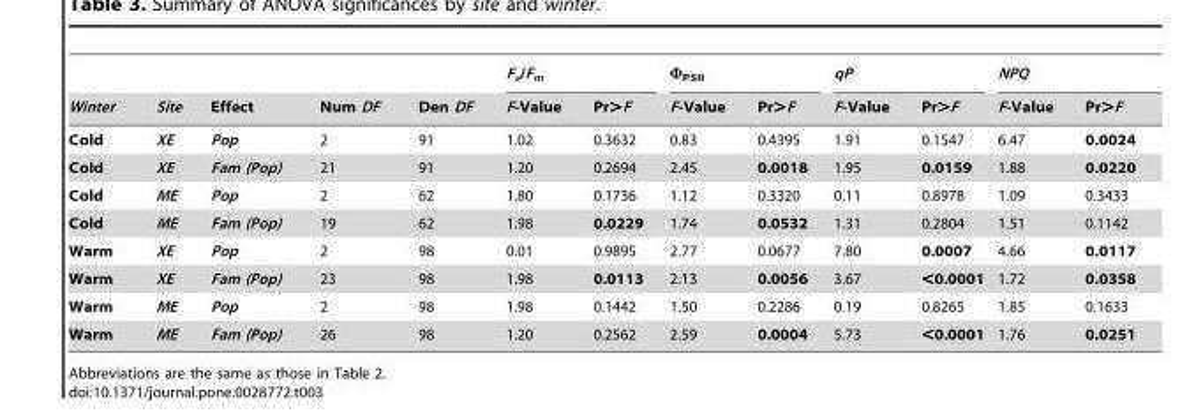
<table><thead><tr><td rowspan="2">Winter</td><td rowspan="2">Site</td><td rowspan="2">Effect</td><td rowspan="2">Num DF</td><td rowspan="2">Den DF</td><td colspan="2">F<sub>v</sub>/F<sub>m</sub></td><td colspan="2">Φ<sub>PSII</sub></td><td colspan="2">qP</td><td colspan="2">NPQ</td></tr><tr><td>F-Value</td><td>Pr&gt;F</td><td>F-Value</td><td>Pr&gt;F</td><td>F-Value</td><td>Pr&gt;F</td><td>F-Value</td><td>Pr&gt;F</td></tr></thead><tbody><tr><td>Cold</td><td>XE</td><td>Pop</td><td>2</td><td>91</td><td>1.02</td><td>0.3632</td><td>0.83</td><td>0.4395</td><td>1.91</td><td>0.1547</td><td>6.47</td><td>0.0024</td></tr><tr><td>Cold</td><td>XE</td><td>Fam (Pop)</td><td>21</td><td>91</td><td>1.20</td><td>0.2694</td><td>2.45</td><td>0.0018</td><td>1.95</td><td>0.0159</td><td>1.88</td><td>0.0220</td></tr><tr><td>Cold</td><td>ME</td><td>Pop</td><td>2</td><td>62</td><td>1.80</td><td>0.1736</td><td>1.12</td><td>0.3320</td><td>0.11</td><td>0.8978</td><td>1.09</td><td>0.3433</td></tr><tr><td>Cold</td><td>ME</td><td>Fam (Pop)</td><td>19</td><td>62</td><td>1.98</td><td>0.0229</td><td>1.74</td><td>0.0532</td><td>1.31</td><td>0.2804</td><td>1.51</td><td>0.1142</td></tr><tr><td>Warm</td><td>XE</td><td>Pop</td><td>2</td><td>98</td><td>0.01</td><td>0.9895</td><td>2.77</td><td>0.0677</td><td>7.80</td><td>0.0007</td><td>4.66</td><td>0.0117</td></tr><tr><td>Warm</td><td>XE</td><td>Fam (Pop)</td><td>23</td><td>98</td><td>1.98</td><td>0.0113</td><td>2.13</td><td>0.0056</td><td>3.67</td><td>&lt;0.0001</td><td>1.72</td><td>0.0358</td></tr><tr><td>Warm</td><td>ME</td><td>Pop</td><td>2</td><td>98</td><td>1.98</td><td>0.1442</td><td>1.50</td><td>0.2286</td><td>0.19</td><td>0.8265</td><td>1.85</td><td>0.1633</td></tr><tr><td>Warm</td><td>ME</td><td>Fam (Pop)</td><td>26</td><td>98</td><td>1.20</td><td>0.2562</td><td>2.59</td><td>0.0004</td><td>5.73</td><td>&lt;0.0001</td><td>1.76</td><td>0.0251</td></tr></tbody></table>